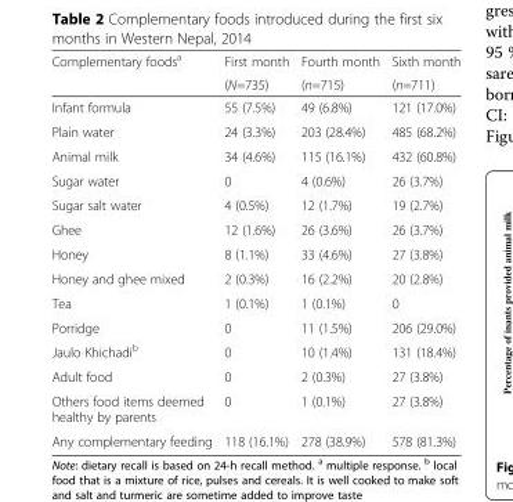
<table><thead><tr><td rowspan="2">Complementary foods<sup>a</sup></td><td rowspan="2">First month (N=735)</td><td rowspan="2">Fourth month (n=715)</td><td rowspan="2">Sixth month (n=711)</td></tr><tr></tr></thead><tbody><tr><td>Infant formula</td><td>55 (7.5%)</td><td>49 (6.8%)</td><td>121 (17.0%)</td></tr><tr><td>Plain water</td><td>24 (3.3%)</td><td>203 (28.4%)</td><td>485 (68.2%)</td></tr><tr><td>Animal milk</td><td>34 (4.6%)</td><td>115 (16.1%)</td><td>432 (60.8%)</td></tr><tr><td>Sugar water</td><td>0</td><td>4 (0.6%)</td><td>26 (3.7%)</td></tr><tr><td>Sugar salt water</td><td>4 (0.5%)</td><td>12 (1.7%)</td><td>19 (2.7%)</td></tr><tr><td>Ghee</td><td>12 (1.6%)</td><td>26 (3.6%)</td><td>26 (3.7%)</td></tr><tr><td>Honey</td><td>8 (1.1%)</td><td>33 (4.6%)</td><td>27 (3.8%)</td></tr><tr><td>Honey and ghee mixed</td><td>2 (0.3%)</td><td>16 (2.2%)</td><td>20 (2.8%)</td></tr><tr><td>Tea</td><td>1 (0.1%)</td><td>1 (0.1%)</td><td>0</td></tr><tr><td>Porridge</td><td>0</td><td>11 (1.5%)</td><td>206 (29.0%)</td></tr><tr><td>Jaulo Khichadi<sup>b</sup></td><td>0</td><td>10 (1.4%)</td><td>131 (18.4%)</td></tr><tr><td>Adult food</td><td>0</td><td>2 (0.3%)</td><td>27 (3.8%)</td></tr><tr><td>Others food items deemed healthy by parents</td><td>0</td><td>1 (0.1%)</td><td>27 (3.8%)</td></tr><tr><td>Any complementary feeding</td><td>118 (16.1%)</td><td>278 (38.9%)</td><td>578 (81.3%)</td></tr></tbody></table>